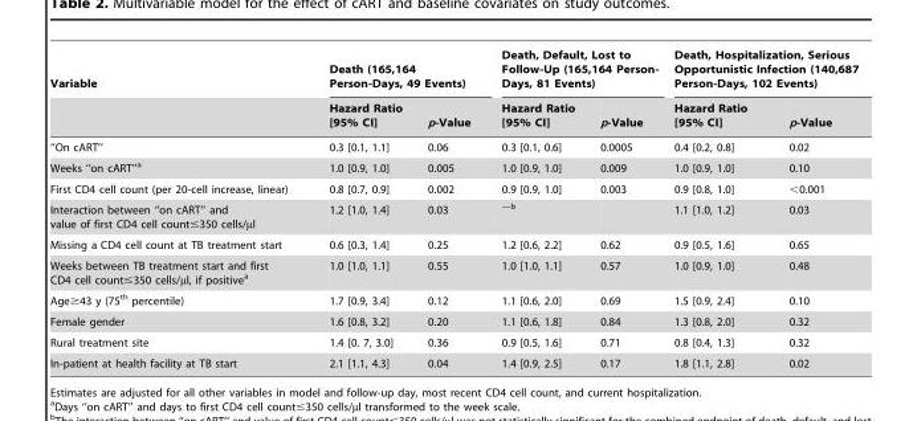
<table><thead><tr><td rowspan="2">Variable</td><td colspan="2">Death (165,164 Person-Days, 49 Events)</td><td colspan="2">Death, Default, Lost to Follow-Up (165,164 Person- Days, 81 Events)</td><td colspan="2">Death, Hospitalization, Serious Opportunistic Infection (140,687 Person-Days, 102 Events)</td></tr><tr><td>Hazard Ratio [95% CI]</td><td>p-Value</td><td>Hazard Ratio [95% CI]</td><td>p-Value</td><td>Hazard Ratio [95% CI]</td><td>p-Value</td></tr></thead><tbody><tr><td>‘‘On cART’’</td><td>0.3 [0.1, 1.1]</td><td>0.06</td><td>0.3 [0.1, 0.6]</td><td>0.0005</td><td>0.4 [0.2, 0.8]</td><td>0.02</td></tr><tr><td>Weeks ‘‘on cART’’a</td><td>1.0 [0.9, 1.0]</td><td>0.005</td><td>1.0 [0.9, 1.0]</td><td>0.009</td><td>1.0 [0.9, 1.0]</td><td>0.10</td></tr><tr><td>First CD4 cell count (per 20-cell increase, linear)</td><td>0.8 [0.7, 0.9]</td><td>0.002</td><td>0.9 [0.9, 1.0]</td><td>0.003</td><td>0.9 [0.8, 1.0]</td><td>&lt;0.001</td></tr><tr><td>Interaction between ‘‘on cART’’ and value of first CD4 cell count#350 cells/ml</td><td>1.2 [1.0, 1.4]</td><td>0.03</td><td><sup>—b</sup></td><td></td><td>1.1 [1.0, 1.2]</td><td>0.03</td></tr><tr><td>Missing a CD4 cell count at TB treatment start</td><td>0.6 [0.3, 1.4]</td><td>0.25</td><td>1.2 [0.6, 2.2]</td><td>0.62</td><td>0.9 [0.5, 1.6]</td><td>0.65</td></tr><tr><td>Weeks between TB treatment start and first CD4 cell count≤350 cells/µl, if positive<sup>a</sup></td><td>1.0 [1.0, 1.1]</td><td>0.55</td><td>1.0 [1.0, 1.1]</td><td>0.57</td><td>1.0 [0.9, 1.0]</td><td>0.48</td></tr><tr><td>Age≥43 y (75<sup>th</sup> percentile)</td><td>1.7 [0.9, 3.4]</td><td>0.12</td><td>1.1 [0.6, 2.0]</td><td>0.69</td><td>1.5 [0.9, 2.4]</td><td>0.10</td></tr><tr><td>Female gender</td><td>1.6 [0.8, 3.2]</td><td>0.20</td><td>1.1 [0.6, 1.8]</td><td>0.84</td><td>1.3 [0.8, 2.0]</td><td>0.32</td></tr><tr><td>Rural treatment site</td><td>1.4 [0. 7, 3.0]</td><td>0.36</td><td>0.9 [0.5, 1.6]</td><td>0.71</td><td>0.8 [0.4, 1.3]</td><td>0.32</td></tr><tr><td>In-patient at health facility at TB start</td><td>2.1 [1.1, 4.3]</td><td>0.04</td><td>1.4 [0.9, 2.5]</td><td>0.17</td><td>1.8 [1.1, 2.8]</td><td>0.02</td></tr></tbody></table>